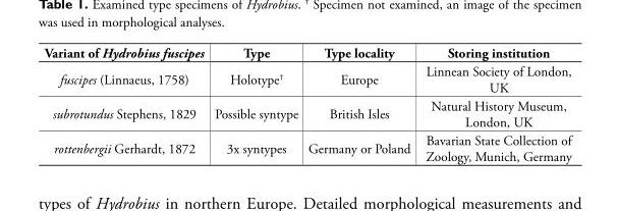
<table><thead><tr><td>Variant of Hydrobius fuscipes</td><td>Type</td><td>Type locality</td><td>Storing institution</td></tr></thead><tbody><tr><td>fuscipes (Linnaeus, 1758)</td><td>Holotype<sup>†</sup></td><td>Europe</td><td>Linnean Society of London, UK</td></tr><tr><td>subrotundus Stephens, 1829</td><td>Possible syntype</td><td>British Isles</td><td>Natural History Museum, London, UK</td></tr><tr><td>rottenbergii Gerhardt, 1872</td><td>3x syntypes</td><td>Germany or Poland</td><td>Bavarian State Collection of Zoology, Munich, Germany</td></tr></tbody></table>